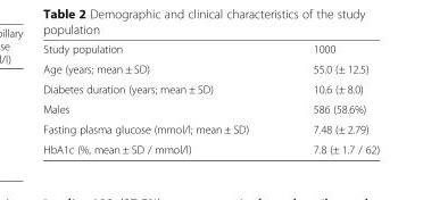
<table><tbody><tr><td>Study population</td><td>1000</td></tr><tr><td>Age (years; mean ± SD)</td><td>55.0 (± 12.5)</td></tr><tr><td>Diabetes duration (years; mean ± SD)</td><td>10.6 (± 8.0)</td></tr><tr><td>Males</td><td>586 (58.6%)</td></tr><tr><td>Fasting plasma glucose (mmol/l; mean ± SD)</td><td>7.48 (± 2.79)</td></tr><tr><td>HbA1c (%, mean ± SD / mmol/l)</td><td>7.8 (± 1.7 / 62)</td></tr></tbody></table>